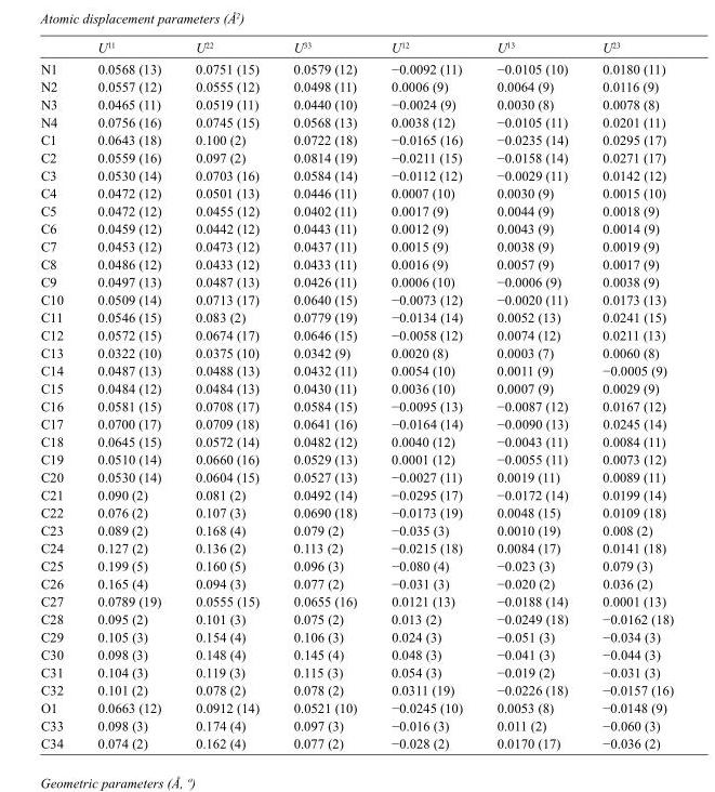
<table><thead><tr><td></td><td>U<sup>11</sup></td><td>U<sup>22</sup></td><td>U<sup>33</sup></td><td>U<sup>12</sup></td><td>U<sup>13</sup></td><td>U<sup>23</sup></td></tr></thead><tbody><tr><td>N1</td><td>0.0568 (13)</td><td>0.0751 (15)</td><td>0.0579 (12)</td><td>−0.0092 (11)</td><td>−0.0105 (10)</td><td>0.0180 (11)</td></tr><tr><td>N2</td><td>0.0557 (12)</td><td>0.0555 (12)</td><td>0.0498 (11)</td><td>0.0006 (9)</td><td>0.0064 (9)</td><td>0.0116 (9)</td></tr><tr><td>N3</td><td>0.0465 (11)</td><td>0.0519 (11)</td><td>0.0440 (10)</td><td>−0.0024 (9)</td><td>0.0030 (8)</td><td>0.0078 (8)</td></tr><tr><td>N4</td><td>0.0756 (16)</td><td>0.0745 (15)</td><td>0.0568 (13)</td><td>0.0038 (12)</td><td>−0.0105 (11)</td><td>0.0201 (11)</td></tr><tr><td>C1</td><td>0.0643 (18)</td><td>0.100 (2)</td><td>0.0722 (18)</td><td>−0.0165 (16)</td><td>−0.0235 (14)</td><td>0.0295 (17)</td></tr><tr><td>C2</td><td>0.0559 (16)</td><td>0.097 (2)</td><td>0.0814 (19)</td><td>−0.0211 (15)</td><td>−0.0158 (14)</td><td>0.0271 (17)</td></tr><tr><td>C3</td><td>0.0530 (14)</td><td>0.0703 (16)</td><td>0.0584 (14)</td><td>−0.0112 (12)</td><td>−0.0029 (11)</td><td>0.0142 (12)</td></tr><tr><td>C4</td><td>0.0472 (12)</td><td>0.0501 (13)</td><td>0.0446 (11)</td><td>0.0007 (10)</td><td>0.0030 (9)</td><td>0.0015 (10)</td></tr><tr><td>C5</td><td>0.0472 (12)</td><td>0.0455 (12)</td><td>0.0402 (11)</td><td>0.0017 (9)</td><td>0.0044 (9)</td><td>0.0018 (9)</td></tr><tr><td>C6</td><td>0.0459 (12)</td><td>0.0442 (12)</td><td>0.0443 (11)</td><td>0.0012 (9)</td><td>0.0043 (9)</td><td>0.0014 (9)</td></tr><tr><td>C7</td><td>0.0453 (12)</td><td>0.0473 (12)</td><td>0.0437 (11)</td><td>0.0015 (9)</td><td>0.0038 (9)</td><td>0.0019 (9)</td></tr><tr><td>C8</td><td>0.0486 (12)</td><td>0.0433 (12)</td><td>0.0433 (11)</td><td>0.0016 (9)</td><td>0.0057 (9)</td><td>0.0017 (9)</td></tr><tr><td>C9</td><td>0.0497 (13)</td><td>0.0487 (13)</td><td>0.0426 (11)</td><td>0.0006 (10)</td><td>−0.0006 (9)</td><td>0.0038 (9)</td></tr><tr><td>C10</td><td>0.0509 (14)</td><td>0.0713 (17)</td><td>0.0640 (15)</td><td>−0.0073 (12)</td><td>−0.0020 (11)</td><td>0.0173 (13)</td></tr><tr><td>C11</td><td>0.0546 (15)</td><td>0.083 (2)</td><td>0.0779 (19)</td><td>−0.0134 (14)</td><td>0.0052 (13)</td><td>0.0241 (15)</td></tr><tr><td>C12</td><td>0.0572 (15)</td><td>0.0674 (17)</td><td>0.0646 (15)</td><td>−0.0058 (12)</td><td>0.0074 (12)</td><td>0.0211 (13)</td></tr><tr><td>C13</td><td>0.0322 (10)</td><td>0.0375 (10)</td><td>0.0342 (9)</td><td>0.0020 (8)</td><td>0.0003 (7)</td><td>0.0060 (8)</td></tr><tr><td>C14</td><td>0.0487 (13)</td><td>0.0488 (13)</td><td>0.0432 (11)</td><td>0.0054 (10)</td><td>0.0011 (9)</td><td>−0.0005 (9)</td></tr><tr><td>C15</td><td>0.0484 (12)</td><td>0.0484 (13)</td><td>0.0430 (11)</td><td>0.0036 (10)</td><td>0.0007 (9)</td><td>0.0029 (9)</td></tr><tr><td>C16</td><td>0.0581 (15)</td><td>0.0708 (17)</td><td>0.0584 (15)</td><td>−0.0095 (13)</td><td>−0.0087 (12)</td><td>0.0167 (12)</td></tr><tr><td>C17</td><td>0.0700 (17)</td><td>0.0709 (18)</td><td>0.0641 (16)</td><td>−0.0164 (14)</td><td>−0.0090 (13)</td><td>0.0245 (14)</td></tr><tr><td>C18</td><td>0.0645 (15)</td><td>0.0572 (14)</td><td>0.0482 (12)</td><td>0.0040 (12)</td><td>−0.0043 (11)</td><td>0.0084 (11)</td></tr><tr><td>C19</td><td>0.0510 (14)</td><td>0.0660 (16)</td><td>0.0529 (13)</td><td>0.0001 (12)</td><td>−0.0055 (11)</td><td>0.0073 (12)</td></tr><tr><td>C20</td><td>0.0530 (14)</td><td>0.0604 (15)</td><td>0.0527 (13)</td><td>−0.0027 (11)</td><td>0.0019 (11)</td><td>0.0089 (11)</td></tr><tr><td>C21</td><td>0.090 (2)</td><td>0.081 (2)</td><td>0.0492 (14)</td><td>−0.0295 (17)</td><td>−0.0172 (14)</td><td>0.0199 (14)</td></tr><tr><td>C22</td><td>0.076 (2)</td><td>0.107 (3)</td><td>0.0690 (18)</td><td>−0.0173 (19)</td><td>0.0048 (15)</td><td>0.0109 (18)</td></tr><tr><td>C23</td><td>0.089 (2)</td><td>0.168 (4)</td><td>0.079 (2)</td><td>−0.035 (3)</td><td>0.0010 (19)</td><td>0.008 (2)</td></tr><tr><td>C24</td><td>0.127 (2)</td><td>0.136 (2)</td><td>0.113 (2)</td><td>−0.0215 (18)</td><td>0.0084 (17)</td><td>0.0141 (18)</td></tr><tr><td>C25</td><td>0.199 (5)</td><td>0.160 (5)</td><td>0.096 (3)</td><td>−0.080 (4)</td><td>−0.023 (3)</td><td>0.079 (3)</td></tr><tr><td>C26</td><td>0.165 (4)</td><td>0.094 (3)</td><td>0.077 (2)</td><td>−0.031 (3)</td><td>−0.020 (2)</td><td>0.036 (2)</td></tr><tr><td>C27</td><td>0.0789 (19)</td><td>0.0555 (15)</td><td>0.0655 (16)</td><td>0.0121 (13)</td><td>−0.0188 (14)</td><td>0.0001 (13)</td></tr><tr><td>C28</td><td>0.095 (2)</td><td>0.101 (3)</td><td>0.075 (2)</td><td>0.013 (2)</td><td>−0.0249 (18)</td><td>−0.0162 (18)</td></tr><tr><td>C29</td><td>0.105 (3)</td><td>0.154 (4)</td><td>0.106 (3)</td><td>0.024 (3)</td><td>−0.051 (3)</td><td>−0.034 (3)</td></tr><tr><td>C30</td><td>0.098 (3)</td><td>0.148 (4)</td><td>0.145 (4)</td><td>0.048 (3)</td><td>−0.041 (3)</td><td>−0.044 (3)</td></tr><tr><td>C31</td><td>0.104 (3)</td><td>0.119 (3)</td><td>0.115 (3)</td><td>0.054 (3)</td><td>−0.019 (2)</td><td>−0.031 (3)</td></tr><tr><td>C32</td><td>0.101 (2)</td><td>0.078 (2)</td><td>0.078 (2)</td><td>0.0311 (19)</td><td>−0.0226 (18)</td><td>−0.0157 (16)</td></tr><tr><td>O1</td><td>0.0663 (12)</td><td>0.0912 (14)</td><td>0.0521 (10)</td><td>−0.0245 (10)</td><td>0.0053 (8)</td><td>−0.0148 (9)</td></tr><tr><td>C33</td><td>0.098 (3)</td><td>0.174 (4)</td><td>0.097 (3)</td><td>−0.016 (3)</td><td>0.011 (2)</td><td>−0.060 (3)</td></tr><tr><td>C34</td><td>0.074 (2)</td><td>0.162 (4)</td><td>0.077 (2)</td><td>−0.028 (2)</td><td>0.0170 (17)</td><td>−0.036 (2)</td></tr></tbody></table>